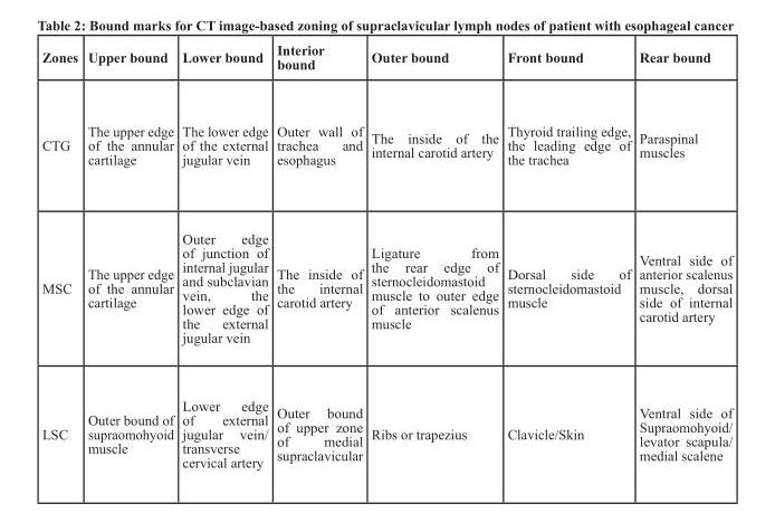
<table><thead><tr><td>Zones</td><td>upper bound</td><td>lower bound</td><td>Interior bound</td><td>outer bound</td><td>Front bound</td><td>rear bound</td></tr></thead><tbody><tr><td>CTG</td><td>The upper edge of the annular cartilage</td><td>The lower edge of the external jugular vein</td><td>Outer wall of trachea and esophagus</td><td>The inside of the internal carotid artery</td><td>Thyroid trailing edge, the leading edge of the trachea</td><td>Paraspinal muscles</td></tr><tr><td>MSC</td><td>The upper edge of the annular cartilage</td><td>Outer edge of junction of internal jugular and subclavian vein, the lower edge of the external jugular vein</td><td>The inside of the internal carotid artery</td><td>Ligature from the rear edge of sternocleidomastoid muscle to outer edge of anterior scalenus muscle</td><td>Dorsal side of sternocleidomastoid muscle</td><td>Ventral side of anterior scalenus muscle, dorsal side of internal carotid artery</td></tr><tr><td>LSC</td><td>Outer bound of supraomohyoid muscle</td><td>Lower edge of external jugular vein/ transverse cervical artery</td><td>Outer bound of upper zone of medial supraclavicular</td><td>Ribs or trapezius</td><td>Clavicle/Skin</td><td>Ventral side of Supraomohyoid/ levator scapula/ medial scalene</td></tr></tbody></table>